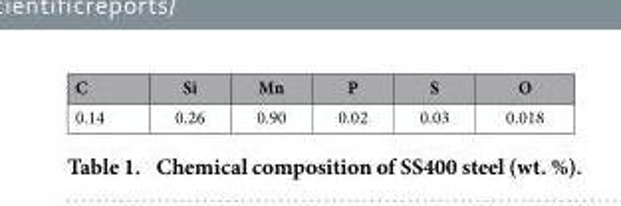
<table><thead><tr><td>C</td><td>Si</td><td>Mn</td><td>P</td><td>S</td><td>O</td></tr></thead><tbody><tr><td>0.14</td><td>0.26</td><td>0.90</td><td>0.02</td><td>0.03</td><td>0.018</td></tr></tbody></table>